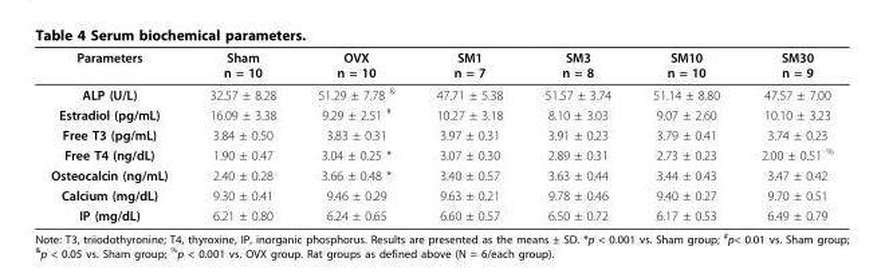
<table><thead><tr><td>Parameters</td><td>Sham n = 10</td><td>OVX n = 10</td><td>SM1 n = 7</td><td>SM3 n = 8</td><td>SM10 n = 10</td><td>SM30 n = 9</td></tr></thead><tbody><tr><td>ALP (U/L)</td><td>32.57 ± 8.28</td><td>51.29 ± 7.78 <sup>&amp;</sup></td><td>47.71 ± 5.38</td><td>51.57 ± 3.74</td><td>51.14 ± 8.80</td><td>47.57 ± 7.00</td></tr><tr><td>Estradiol (pg/mL)</td><td>16.09 ± 3.38</td><td>9.29 ± 2.51 <sup>#</sup></td><td>10.27 ± 3.18</td><td>8.10 ± 3.03</td><td>9.07 ± 2.60</td><td>10.10 ± 3.23</td></tr><tr><td>Free T3 (pg/mL)</td><td>3.84 ± 0.50</td><td>3.83 ± 0.31</td><td>3.97 ± 0.31</td><td>3.91 ± 0.23</td><td>3.79 ± 0.41</td><td>3.74 ± 0.23</td></tr><tr><td>Free T4 (ng/dL)</td><td>1.90 ± 0.47</td><td>3.04 ± 0.25 *</td><td>3.07 ± 0.30</td><td>2.89 ± 0.31</td><td>2.73 ± 0.23</td><td>2.00 ± 0.51 <sup>%</sup></td></tr><tr><td>Osteocalcin (ng/mL)</td><td>2.40 ± 0.28</td><td>3.66 ± 0.48 *</td><td>3.40 ± 0.57</td><td>3.63 ± 0.44</td><td>3.44 ± 0.43</td><td>3.47 ± 0.42</td></tr><tr><td>Calcium (mg/dL)</td><td>9.30 ± 0.41</td><td>9.46 ± 0.29</td><td>9.63 ± 0.21</td><td>9.78 ± 0.46</td><td>9.40 ± 0.27</td><td>9.70 ± 0.51</td></tr><tr><td>IP (mg/dL)</td><td>6.21 ± 0.80</td><td>6.24 ± 0.65</td><td>6.60 ± 0.57</td><td>6.50 ± 0.72</td><td>6.17 ± 0.53</td><td>6.49 ± 0.79</td></tr></tbody></table>